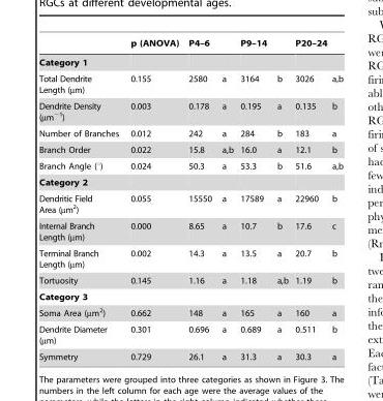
<table><thead><tr><td rowspan="2">Category 1</td><td rowspan="2">p (ANOVA)</td><td colspan="2">P4–6</td><td colspan="2">P9–14</td><td colspan="2">P20–24</td></tr><tr><td></td><td></td><td></td><td></td><td></td><td></td></tr></thead><tbody><tr><td>Total Dendrite Length (µm)</td><td>0.155</td><td>2580</td><td>a</td><td>3164</td><td>b</td><td>3026</td><td>a,b</td></tr><tr><td>Dendrite Density (µm<sup>−1</sup>)</td><td>0.003</td><td>0.178</td><td>a</td><td>0.195</td><td>a</td><td>0.135</td><td>b</td></tr><tr><td>Number of Branches</td><td>0.012</td><td>242</td><td>a</td><td>284</td><td>b</td><td>183</td><td>a</td></tr><tr><td>Branch Order</td><td>0.022</td><td>15.8</td><td>a,b</td><td>16.0</td><td>a</td><td>12.1</td><td>b</td></tr><tr><td>Branch Angle (°)</td><td>0.024</td><td>50.3</td><td>a</td><td>53.3</td><td>b</td><td>51.6</td><td>a,b</td></tr><tr><td colspan="8">Category 2</td></tr><tr><td>Dendritic Field Area (µm<sup>2</sup>)</td><td>0.055</td><td>15550</td><td>a</td><td>17589</td><td>a</td><td>22960</td><td>b</td></tr><tr><td>Internal Branch Length (µm)</td><td>0.000</td><td>8.65</td><td>a</td><td>10.7</td><td>b</td><td>17.6</td><td>c</td></tr><tr><td>Terminal Branch Length (µm)</td><td>0.002</td><td>14.3</td><td>a</td><td>13.5</td><td>a</td><td>20.7</td><td>b</td></tr><tr><td>Tortuosity</td><td>0.145</td><td>1.16</td><td>a</td><td>1.18</td><td>a,b</td><td>1.19</td><td>b</td></tr><tr><td colspan="8">Category 3</td></tr><tr><td>Soma Area (µm<sup>2</sup>)</td><td>0.662</td><td>148</td><td>a</td><td>165</td><td>a</td><td>160</td><td>a</td></tr><tr><td>Dendrite Diameter (µm)</td><td>0.301</td><td>0.696</td><td>a</td><td>0.689</td><td>a</td><td>0.511</td><td>b</td></tr><tr><td>Symmetry</td><td>0.729</td><td>26.1</td><td>a</td><td>31.3</td><td>a</td><td>30.3</td><td>a</td></tr></tbody></table>